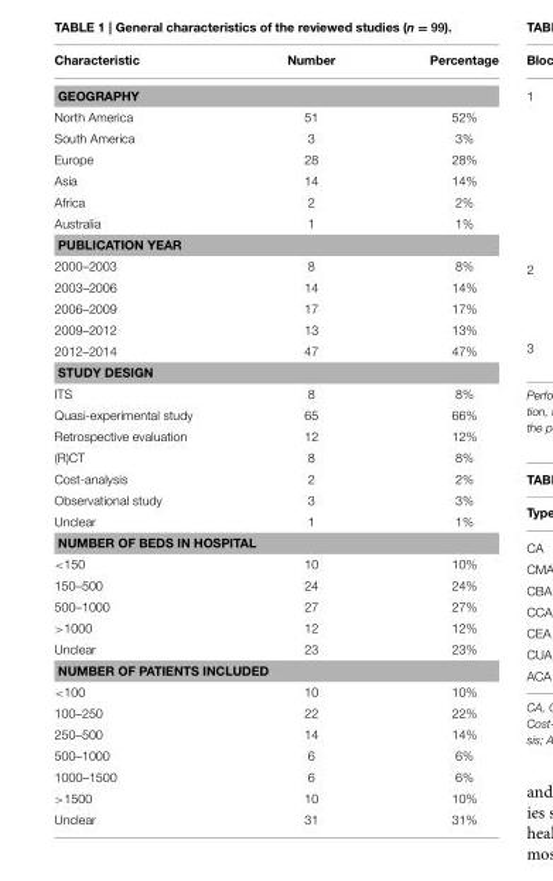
<table><thead><tr><td>Characteristic</td><td>Number</td><td>Percentage</td></tr></thead><tbody><tr><td colspan="3">GEOGRAPHY</td></tr><tr><td>North America</td><td>51</td><td>52%</td></tr><tr><td>South America</td><td>3</td><td>3%</td></tr><tr><td>Europe</td><td>28</td><td>28%</td></tr><tr><td>Asia</td><td>14</td><td>14%</td></tr><tr><td>Africa</td><td>2</td><td>2%</td></tr><tr><td>Australia</td><td>1</td><td>1%</td></tr><tr><td colspan="3">PUBLICATION YEAR</td></tr><tr><td>2000–2003</td><td>8</td><td>8%</td></tr><tr><td>2003–2006</td><td>14</td><td>14%</td></tr><tr><td>2006–2009</td><td>17</td><td>17%</td></tr><tr><td>2009–2012</td><td>13</td><td>13%</td></tr><tr><td>2012–2014</td><td>47</td><td>47%</td></tr><tr><td colspan="3">STUDY DESIGN</td></tr><tr><td>ITS</td><td>8</td><td>8%</td></tr><tr><td>Quasi-experimental study</td><td>65</td><td>66%</td></tr><tr><td>Retrospective evaluation</td><td>12</td><td>12%</td></tr><tr><td>(R)CT</td><td>8</td><td>8%</td></tr><tr><td>Cost-analysis</td><td>2</td><td>2%</td></tr><tr><td>Observational study</td><td>3</td><td>3%</td></tr><tr><td>Unclear</td><td>1</td><td>1%</td></tr><tr><td colspan="3">NUMBER OF BEDS IN HOSPITAL</td></tr><tr><td>&lt;150</td><td>10</td><td>10%</td></tr><tr><td>150–500</td><td>24</td><td>24%</td></tr><tr><td>500–1000</td><td>27</td><td>27%</td></tr><tr><td>&gt;1000</td><td>12</td><td>12%</td></tr><tr><td>Unclear</td><td>23</td><td>23%</td></tr><tr><td colspan="3">NUMBER OF PATIENTS INCLUDED</td></tr><tr><td>&lt;100</td><td>10</td><td>10%</td></tr><tr><td>100–250</td><td>22</td><td>22%</td></tr><tr><td>250–500</td><td>14</td><td>14%</td></tr><tr><td>500–1000</td><td>6</td><td>6%</td></tr><tr><td>1000–1500</td><td>6</td><td>6%</td></tr><tr><td>&gt;1500</td><td>10</td><td>10%</td></tr><tr><td>Unclear</td><td>31</td><td>31%</td></tr></tbody></table>